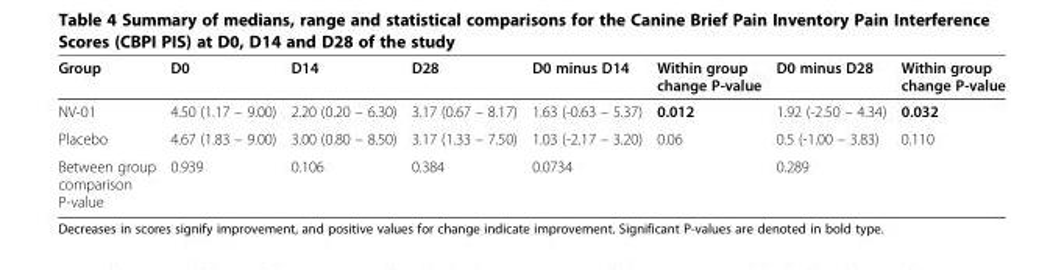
<table><thead><tr><td>Group</td><td>D0</td><td>D14</td><td>D28</td><td>D0 minus D14</td><td>Within group change P-value</td><td>D0 minus D28</td><td>Within group change P-value</td></tr></thead><tbody><tr><td>NV-01</td><td>4.50 (1.17 – 9.00)</td><td>2.20 (0.20 – 6.30)</td><td>3.17 (0.67 – 8.17)</td><td>1.63 (-0.63 – 5.37)</td><td>0.012</td><td>1.92 (-2.50 – 4.34)</td><td>0.032</td></tr><tr><td>Placebo</td><td>4.67 (1.83 – 9.00)</td><td>3.00 (0.80 – 8.50)</td><td>3.17 (1.33 – 7.50)</td><td>1.03 (-2.17 – 3.20)</td><td>0.06</td><td>0.5 (-1.00 – 3.83)</td><td>0.110</td></tr><tr><td>Between group comparison P-value</td><td>0.939</td><td>0.106</td><td>0.384</td><td>0.0734</td><td></td><td>0.289</td><td></td></tr></tbody></table>